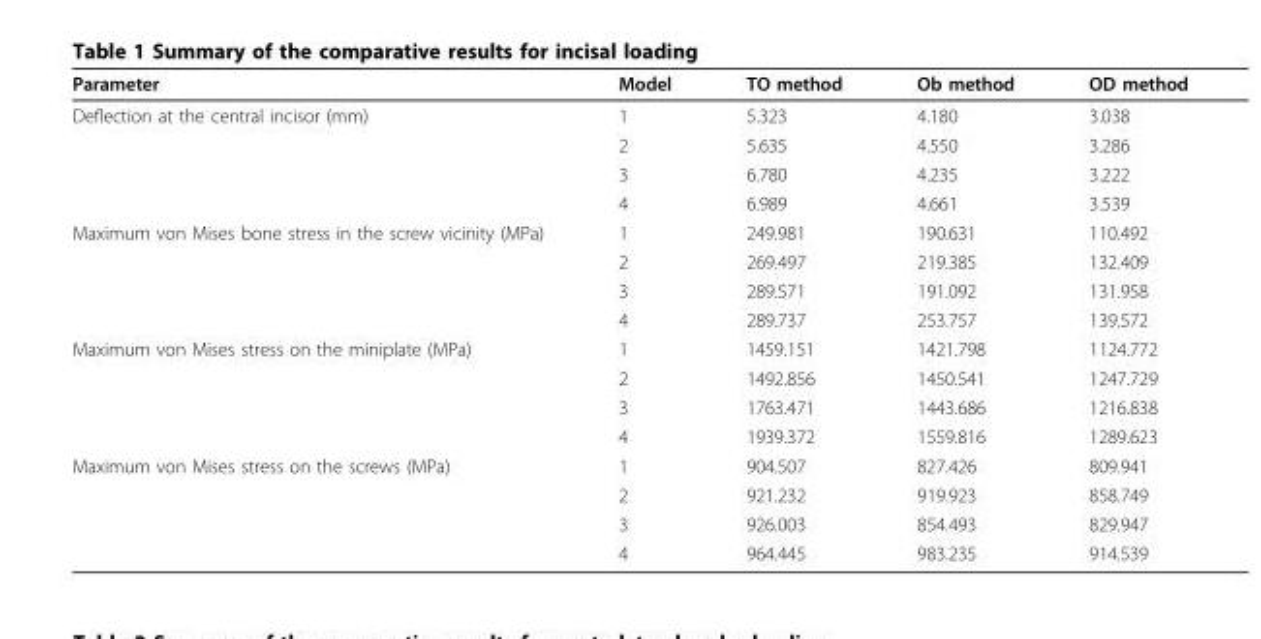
<table><thead><tr><td>Parameter</td><td>Model</td><td>TO method</td><td>Ob method</td><td>OD method</td></tr></thead><tbody><tr><td rowspan="4">Deflection at the central incisor (mm)</td><td>1</td><td>5.323</td><td>4.180</td><td>3.038</td></tr><tr><td>2</td><td>5.635</td><td>4.550</td><td>3.286</td></tr><tr><td>3</td><td>6.780</td><td>4.235</td><td>3.222</td></tr><tr><td>4</td><td>6.989</td><td>4.661</td><td>3.539</td></tr><tr><td rowspan="4">Maximum von Mises bone stress in the screw vicinity (MPa)</td><td>1</td><td>249.981</td><td>190.631</td><td>110.492</td></tr><tr><td>2</td><td>269.497</td><td>219.385</td><td>132.409</td></tr><tr><td>3</td><td>289.571</td><td>191.092</td><td>131.958</td></tr><tr><td>4</td><td>289.737</td><td>253.757</td><td>139.572</td></tr><tr><td rowspan="4">Maximum von Mises stress on the miniplate (MPa)</td><td>1</td><td>1459.151</td><td>1421.798</td><td>1124.772</td></tr><tr><td>2</td><td>1492.856</td><td>1450.541</td><td>1247.729</td></tr><tr><td>3</td><td>1763.471</td><td>1443.686</td><td>1216.838</td></tr><tr><td>4</td><td>1939.372</td><td>1559.816</td><td>1289.623</td></tr><tr><td rowspan="4">Maximum von Mises stress on the screws (MPa)</td><td>1</td><td>904.507</td><td>827.426</td><td>809.941</td></tr><tr><td>2</td><td>921.232</td><td>919.923</td><td>858.749</td></tr><tr><td>3</td><td>926.003</td><td>854.493</td><td>829.947</td></tr><tr><td>4</td><td>964.445</td><td>983.235</td><td>914.539</td></tr></tbody></table>